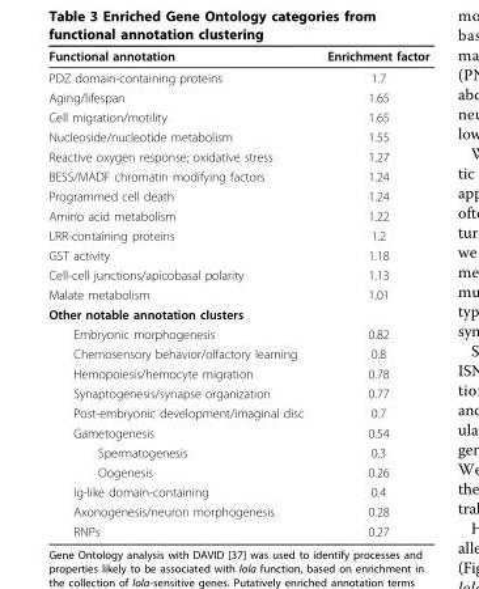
<table><thead><tr><td>Functional annotation</td><td>Enrichment factor</td></tr></thead><tbody><tr><td>PDZ domain-containing proteins</td><td>1.7</td></tr><tr><td>Aging/lifespan</td><td>1.65</td></tr><tr><td>Cell migration/motility</td><td>1.65</td></tr><tr><td>Nucleoside/nucleotide metabolism</td><td>1.55</td></tr><tr><td>Reactive oxygen response; oxidative stress</td><td>1.27</td></tr><tr><td>BESS/MADF chromatin modifying factors</td><td>1.24</td></tr><tr><td>Programmed cell death</td><td>1.24</td></tr><tr><td>Amino acid metabolism</td><td>1.22</td></tr><tr><td>LRR-containing proteins</td><td>1.2</td></tr><tr><td>GST activity</td><td>1.18</td></tr><tr><td>Cell-cell junctions/apicobasal polarity</td><td>1.13</td></tr><tr><td>Malate metabolism</td><td>1.01</td></tr><tr><td colspan="2">Other notable annotation clusters</td></tr><tr><td>Embryonic morphogenesis</td><td>0.82</td></tr><tr><td>Chemosensory behavior/olfactory learning</td><td>0.8</td></tr><tr><td>Hemopoiesis/hemocyte migration</td><td>0.78</td></tr><tr><td>Synaptogenesis/synapse organization</td><td>0.77</td></tr><tr><td>Post-embryonic development/imaginal disc</td><td>0.7</td></tr><tr><td>Gametogenesis</td><td>0.54</td></tr><tr><td>Spermatogenesis</td><td>0.3</td></tr><tr><td>Oogenesis</td><td>0.26</td></tr><tr><td>Ig-like domain-containing</td><td>0.4</td></tr><tr><td>Axonogenesis/neuron morphogenesis</td><td>0.28</td></tr><tr><td>RNPs</td><td>0.27</td></tr></tbody></table>